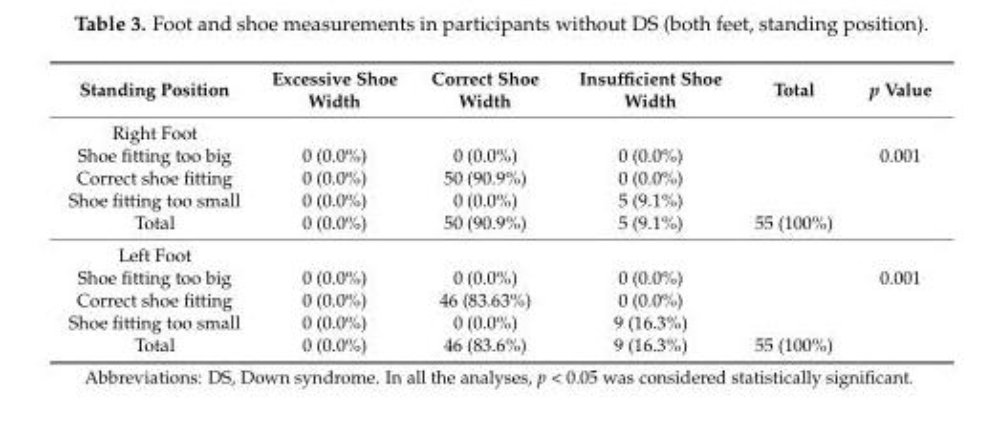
<table><thead><tr><td>Standing Position</td><td>Excessive Shoe Width</td><td>Correct Shoe Width</td><td>Insufficient Shoe Width</td><td>Total</td><td>p Value</td></tr></thead><tbody><tr><td colspan="6">Right Foot</td></tr><tr><td>Shoe fitting too big</td><td>0 (0.0%)</td><td>0 (0.0%)</td><td>0 (0.0%)</td><td></td><td>0.001</td></tr><tr><td>Correct shoe fitting</td><td>0 (0.0%)</td><td>50 (90.9%)</td><td>0 (0.0%)</td><td></td><td></td></tr><tr><td>Shoe fitting too small</td><td>0 (0.0%)</td><td>0 (0.0%)</td><td>5 (9.1%)</td><td></td><td></td></tr><tr><td>Total</td><td>0 (0.0%)</td><td>50 (90.9%)</td><td>5 (9.1%)</td><td>55 (100%)</td><td></td></tr><tr><td colspan="6">Left Foot</td></tr><tr><td>Shoe fitting too big</td><td>0 (0.0%)</td><td>0 (0.0%)</td><td>0 (0.0%)</td><td></td><td>0.001</td></tr><tr><td>Correct shoe fitting</td><td>0 (0.0%)</td><td>46 (83.63%)</td><td>0 (0.0%)</td><td></td><td></td></tr><tr><td>Shoe fitting too small</td><td>0 (0.0%)</td><td>0 (0.0%)</td><td>9 (16.3%)</td><td></td><td></td></tr><tr><td>Total</td><td>0 (0.0%)</td><td>46 (83.6%)</td><td>9 (16.3%)</td><td>55 (100%)</td><td></td></tr></tbody></table>